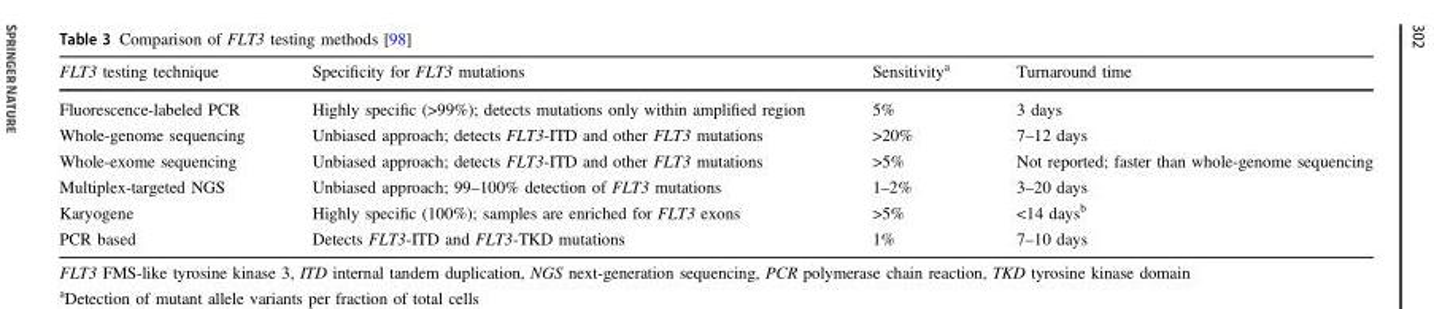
<table><thead><tr><td>FLT3 testing technique</td><td>Specificity for FLT3 mutations</td><td>Sensitivity<sup>a</sup></td><td>Turnaround time</td></tr></thead><tbody><tr><td>Fluorescence-labeled PCR</td><td>Highly specific (&gt;99%); detects mutations only within amplified region</td><td>5%</td><td>3 days</td></tr><tr><td>Whole-genome sequencing</td><td>Unbiased approach; detects FLT3-ITD and other FLT3 mutations</td><td>&gt;20%</td><td>7–12 days</td></tr><tr><td>Whole-exome sequencing</td><td>Unbiased approach; detects FLT3-ITD and other FLT3 mutations</td><td>&gt;5%</td><td>Not reported; faster than whole-genome sequencing</td></tr><tr><td>Multiplex-targeted NGS</td><td>Unbiased approach; 99–100% detection of FLT3 mutations</td><td>1–2%</td><td>3–20 days</td></tr><tr><td>Karyogene</td><td>Highly specific (100%); samples are enriched for FLT3 exons</td><td>&gt;5%</td><td>&lt;14 days<sup>b</sup></td></tr><tr><td>PCR based</td><td>Detects FLT3-ITD and FLT3-TKD mutations</td><td>1%</td><td>7–10 days</td></tr></tbody></table>